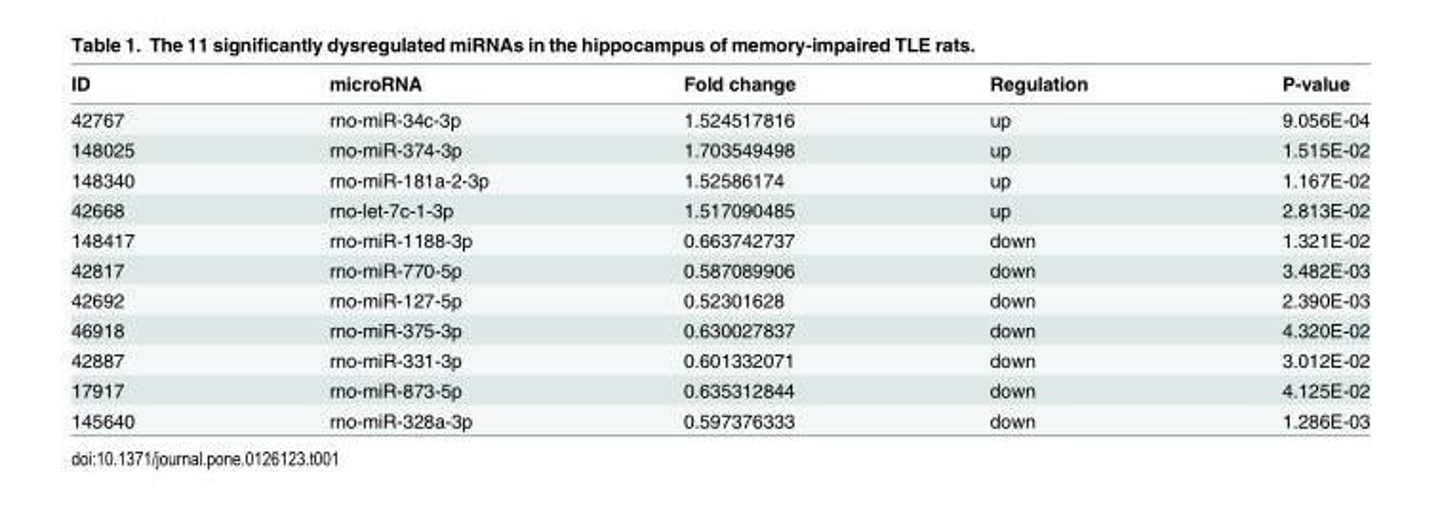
<table><thead><tr><td>ID</td><td>microRNA</td><td>Fold change</td><td>Regulation</td><td>P-value</td></tr></thead><tbody><tr><td>42767</td><td>rno-miR-34c-3p</td><td>1.524517816</td><td>up</td><td>9.056E-04</td></tr><tr><td>148025</td><td>rno-miR-374-3p</td><td>1.703549498</td><td>up</td><td>1.515E-02</td></tr><tr><td>148340</td><td>rno-miR-181a-2-3p</td><td>1.52586174</td><td>up</td><td>1.167E-02</td></tr><tr><td>42668</td><td>rno-let-7c-1-3p</td><td>1.517090485</td><td>up</td><td>2.813E-02</td></tr><tr><td>148417</td><td>rno-miR-1188-3p</td><td>0.663742737</td><td>down</td><td>1.321E-02</td></tr><tr><td>42817</td><td>rno-miR-770-5p</td><td>0.587089906</td><td>down</td><td>3.482E-03</td></tr><tr><td>42692</td><td>rno-miR-127-5p</td><td>0.52301628</td><td>down</td><td>2.390E-03</td></tr><tr><td>46918</td><td>rno-miR-375-3p</td><td>0.630027837</td><td>down</td><td>4.320E-02</td></tr><tr><td>42887</td><td>rno-miR-331-3p</td><td>0.601332071</td><td>down</td><td>3.012E-02</td></tr><tr><td>17917</td><td>rno-miR-873-5p</td><td>0.635312844</td><td>down</td><td>4.125E-02</td></tr><tr><td>145640</td><td>rno-miR-328a-3p</td><td>0.597376333</td><td>down</td><td>1.286E-03</td></tr></tbody></table>